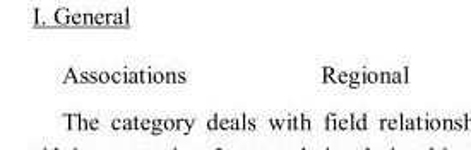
<table><tbody><tr><td>Associations</td><td>Regional</td></tr></tbody></table>